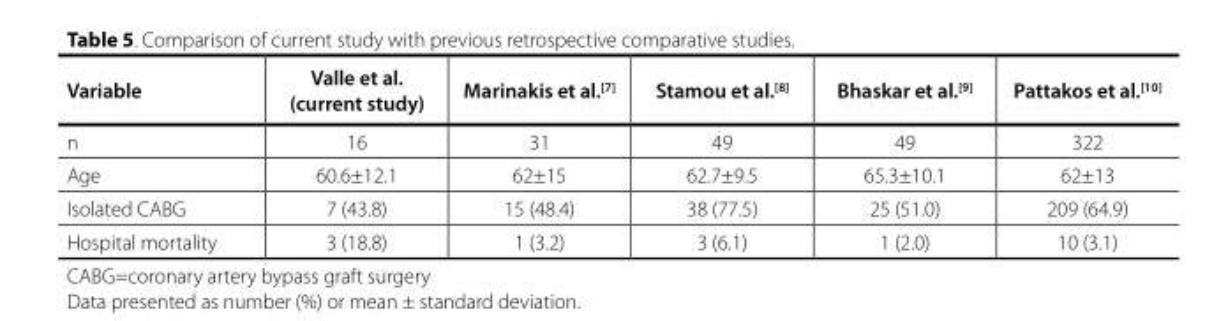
<table><thead><tr><td>Variable</td><td>Valle et al. (current study)</td><td>Marinakis et al.<sup>[7]</sup></td><td>Stamou et al.<sup>[8]</sup></td><td>Bhaskar et al.<sup>[9]</sup></td><td>Pattakos et al.<sup>[10]</sup></td></tr></thead><tbody><tr><td>n</td><td>16</td><td>31</td><td>49</td><td>49</td><td>322</td></tr><tr><td>Age</td><td>60.6±12.1</td><td>62±15</td><td>62.7±9.5</td><td>65.3±10.1</td><td>62±13</td></tr><tr><td>Isolated CABG</td><td>7 (43.8)</td><td>15 (48.4)</td><td>38 (77.5)</td><td>25 (51.0)</td><td>209 (64.9)</td></tr><tr><td>Hospital mortality</td><td>3 (18.8)</td><td>1 (3.2)</td><td>3 (6.1)</td><td>1 (2.0)</td><td>10 (3.1)</td></tr></tbody></table>